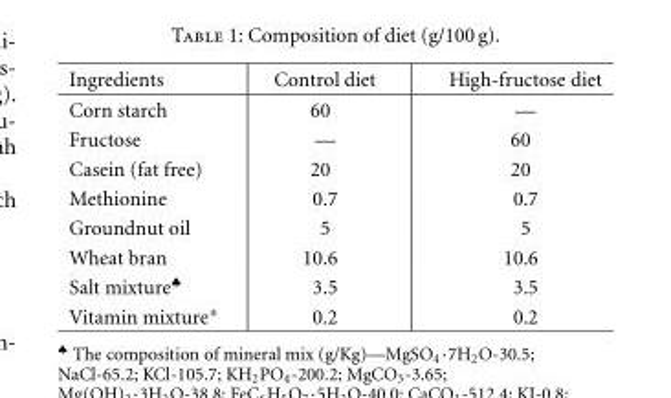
<table><tbody><tr><td>Ingredients</td><td>Control diet</td><td>High-fructose diet</td></tr><tr><td>Corn starch</td><td>60</td><td>—</td></tr><tr><td>Fructose</td><td>—</td><td>60</td></tr><tr><td>Casein (fat free)</td><td>20</td><td>20</td></tr><tr><td>Methionine</td><td>0.7</td><td>0.7</td></tr><tr><td>Groundnut oil</td><td>5</td><td>5</td></tr><tr><td>Wheat bran</td><td>10.6</td><td>10.6</td></tr><tr><td>Salt mixture<sup>♣</sup></td><td>3.5</td><td>3.5</td></tr><tr><td>Vitamin mixture∗</td><td>0.2</td><td>0.2</td></tr></tbody></table>